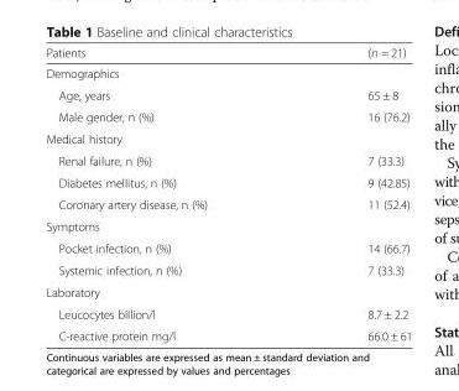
<table><thead><tr><td>Patients</td><td>(n = 21)</td></tr></thead><tbody><tr><td colspan="2">Demographics</td></tr><tr><td>Age, years</td><td>65 ± 8</td></tr><tr><td>Male gender, n (%)</td><td>16 (76.2)</td></tr><tr><td colspan="2">Medical history</td></tr><tr><td>Renal failure, n (%)</td><td>7 (33.3)</td></tr><tr><td>Diabetes mellitus, n (%)</td><td>9 (42.85)</td></tr><tr><td>Coronary artery disease, n (%)</td><td>11 (52.4)</td></tr><tr><td colspan="2">Symptoms</td></tr><tr><td>Pocket infection, n (%)</td><td>14 (66.7)</td></tr><tr><td>Systemic infection, n (%)</td><td>7 (33.3)</td></tr><tr><td colspan="2">Laboratory</td></tr><tr><td>Leucocytes billion/l</td><td>8.7 ± 2.2</td></tr><tr><td>C-reactive protein mg/l</td><td>66.0 ± 61</td></tr></tbody></table>